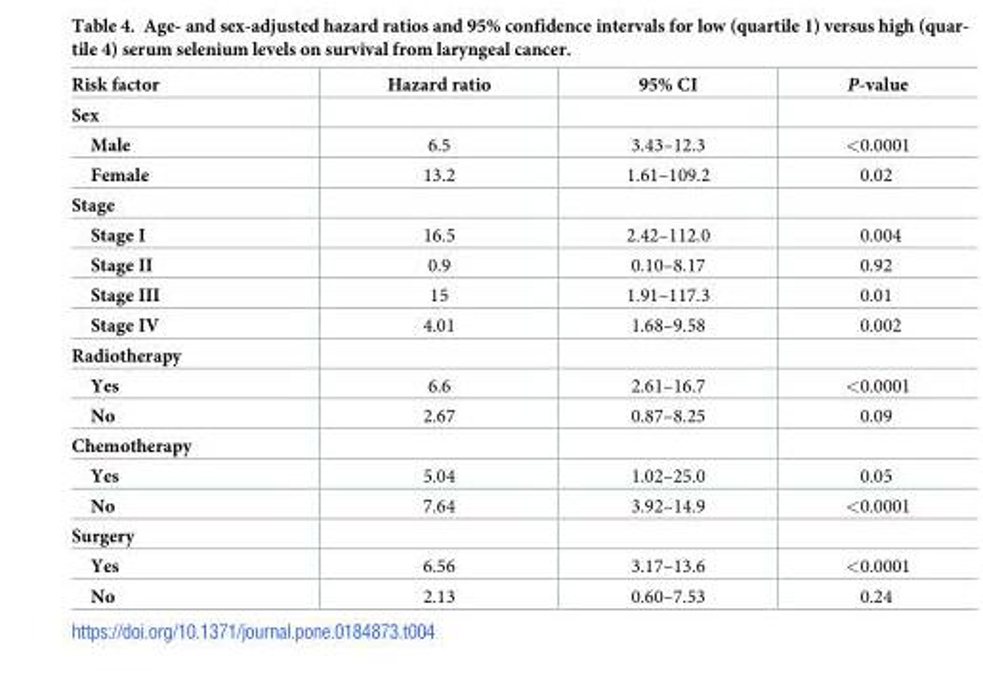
<table><thead><tr><td>Risk factor</td><td>Hazard ratio</td><td>95% CI</td><td>P-value</td></tr></thead><tbody><tr><td colspan="4">Sex</td></tr><tr><td>Male</td><td>6.5</td><td>3.43–12.3</td><td>&lt;0.0001</td></tr><tr><td>Female</td><td>13.2</td><td>1.61–109.2</td><td>0.02</td></tr><tr><td colspan="4">Stage</td></tr><tr><td>Stage I</td><td>16.5</td><td>2.42–112.0</td><td>0.004</td></tr><tr><td>Stage II</td><td>0.9</td><td>0.10–8.17</td><td>0.92</td></tr><tr><td>Stage III</td><td>15</td><td>1.91–117.3</td><td>0.01</td></tr><tr><td>Stage IV</td><td>4.01</td><td>1.68–9.58</td><td>0.002</td></tr><tr><td colspan="4">Radiotherapy</td></tr><tr><td>Yes</td><td>6.6</td><td>2.61–16.7</td><td>&lt;0.0001</td></tr><tr><td>No</td><td>2.67</td><td>0.87–8.25</td><td>0.09</td></tr><tr><td colspan="4">Chemotherapy</td></tr><tr><td>Yes</td><td>5.04</td><td>1.02–25.0</td><td>0.05</td></tr><tr><td>No</td><td>7.64</td><td>3.92–14.9</td><td>&lt;0.0001</td></tr><tr><td colspan="4">Surgery</td></tr><tr><td>Yes</td><td>6.56</td><td>3.17–13.6</td><td>&lt;0.0001</td></tr><tr><td>No</td><td>2.13</td><td>0.60–7.53</td><td>0.24</td></tr></tbody></table>